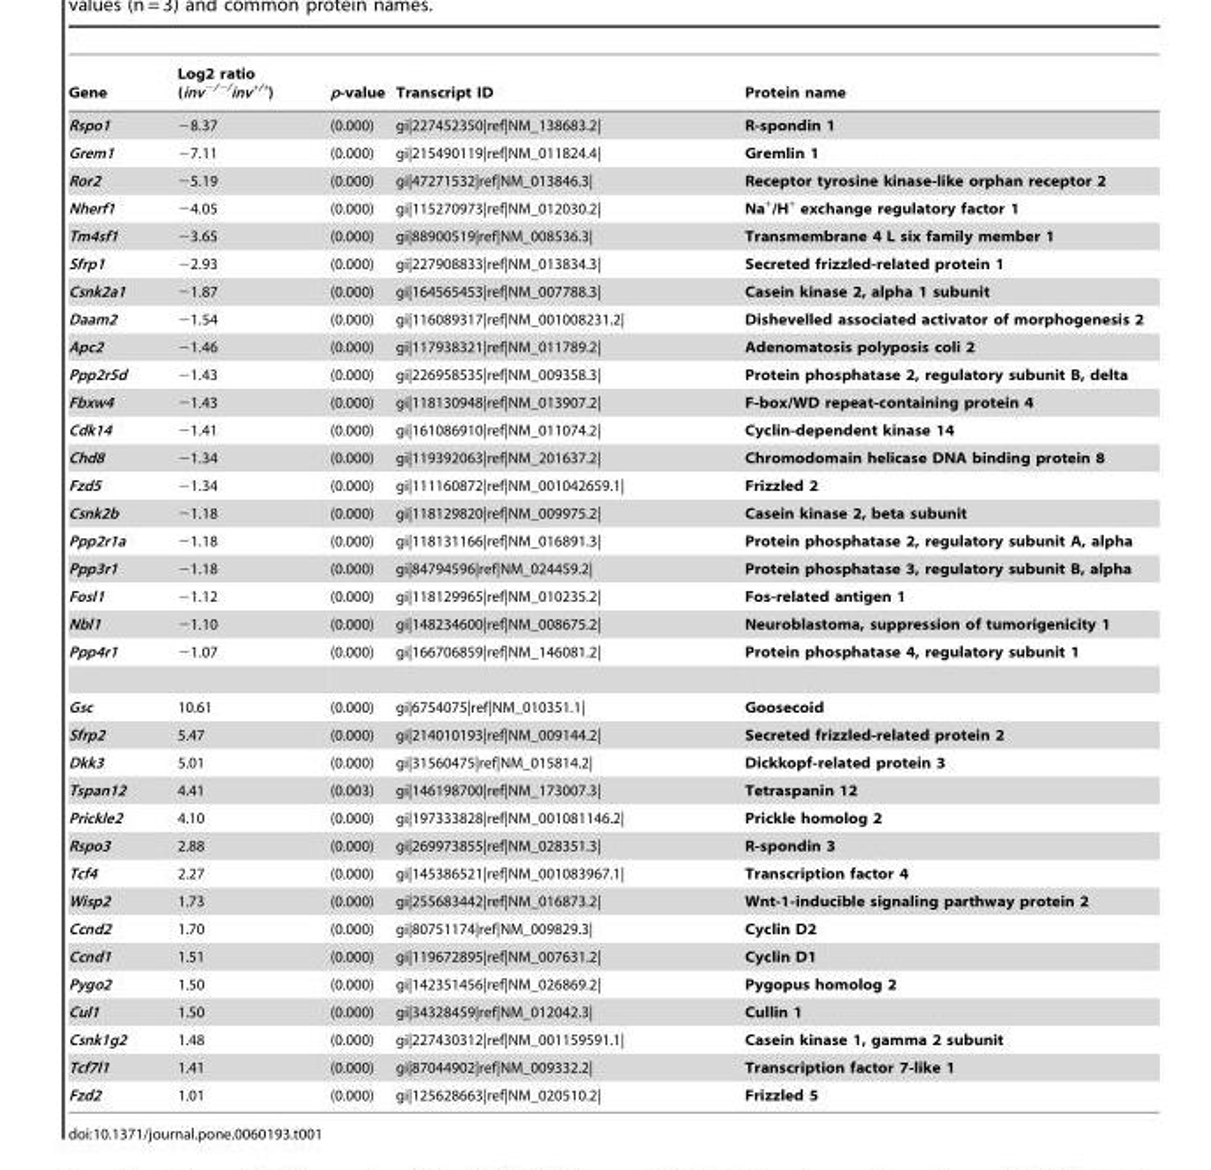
<table><thead><tr><td>Gene</td><td>Log2 ratio (inv<sup>−/−/</sup>inv<sup>+/+</sup>)</td><td>p-value</td><td>Transcript ID</td><td>Protein name</td></tr></thead><tbody><tr><td>Rspo1</td><td>−8.37</td><td>(0.000)</td><td>gi|227452350|ref|NM_138683.2|</td><td>R-spondin 1</td></tr><tr><td>Grem1</td><td>−7.11</td><td>(0.000)</td><td>gi|215490119|ref|NM_011824.4|</td><td>Gremlin 1</td></tr><tr><td>Ror2</td><td>−5.19</td><td>(0.000)</td><td>gi|47271532|ref|NM_013846.3|</td><td>Receptor tyrosine kinase-like orphan receptor 2</td></tr><tr><td>Nherf1</td><td>−4.05</td><td>(0.000)</td><td>gi|115270973|ref|NM_012030.2|</td><td>Na<sup>+</sup>/H<sup>+</sup> exchange regulatory factor 1</td></tr><tr><td>Tm4sf1</td><td>−3.65</td><td>(0.000)</td><td>gi|88900519|ref|NM_008536.3|</td><td>Transmembrane 4 L six family member 1</td></tr><tr><td>Sfrp1</td><td>−2.93</td><td>(0.000)</td><td>gi|227908833|ref|NM_013834.3|</td><td>Secreted frizzled-related protein 1</td></tr><tr><td>Csnk2a1</td><td>−1.87</td><td>(0.000)</td><td>gi|164565453|ref|NM_007788.3|</td><td>Casein kinase 2, alpha 1 subunit</td></tr><tr><td>Daam2</td><td>−1.54</td><td>(0.000)</td><td>gi|116089317|ref|NM_001008231.2|</td><td>Dishevelled associated activator of morphogenesis 2</td></tr><tr><td>Apc2</td><td>−1.46</td><td>(0.000)</td><td>gi|117938321|ref|NM_011789.2|</td><td>Adenomatosis polyposis coli 2</td></tr><tr><td>Ppp2r5d</td><td>−1.43</td><td>(0.000)</td><td>gi|226958535|ref|NM_009358.3|</td><td>Protein phosphatase 2, regulatory subunit B, delta</td></tr><tr><td>Fbxw4</td><td>−1.43</td><td>(0.000)</td><td>gi|118130948|ref|NM_013907.2|</td><td>F-box/WD repeat-containing protein 4</td></tr><tr><td>Cdk14</td><td>−1.41</td><td>(0.000)</td><td>gi|161086910|ref|NM_011074.2|</td><td>Cyclin-dependent kinase 14</td></tr><tr><td>Chd8</td><td>−1.34</td><td>(0.000)</td><td>gi|119392063|ref|NM_201637.2|</td><td>Chromodomain helicase DNA binding protein 8</td></tr><tr><td>Fzd5</td><td>−1.34</td><td>(0.000)</td><td>gi|111160872|ref|NM_001042659.1|</td><td>Frizzled 2</td></tr><tr><td>Csnk2b</td><td>−1.18</td><td>(0.000)</td><td>gi|118129820|ref|NM_009975.2|</td><td>Casein kinase 2, beta subunit</td></tr><tr><td>Ppp2r1a</td><td>−1.18</td><td>(0.000)</td><td>gi|118131166|ref|NM_016891.3|</td><td>Protein phosphatase 2, regulatory subunit A, alpha</td></tr><tr><td>Ppp3r1</td><td>−1.18</td><td>(0.000)</td><td>gi|84794596|ref|NM_024459.2|</td><td>Protein phosphatase 3, regulatory subunit B, alpha</td></tr><tr><td>Fosl1</td><td>−1.12</td><td>(0.000)</td><td>gi|118129965|ref|NM_010235.2|</td><td>Fos-related antigen 1</td></tr><tr><td>Nbl1</td><td>−1.10</td><td>(0.000)</td><td>gi|148234600|ref|NM_008675.2|</td><td>Neuroblastoma, suppression of tumorigenicity 1</td></tr><tr><td>Ppp4r1</td><td>−1.07</td><td>(0.000)</td><td>gi|166706859|ref|NM_146081.2|</td><td>Protein phosphatase 4, regulatory subunit 1</td></tr><tr><td>Gsc</td><td>10.61</td><td>(0.000)</td><td>gi|6754075|ref|NM_010351.1|</td><td>Goosecoid</td></tr><tr><td>Sfrp2</td><td>5.47</td><td>(0.000)</td><td>gi|214010193|ref|NM_009144.2|</td><td>Secreted frizzled-related protein 2</td></tr><tr><td>Dkk3</td><td>5.01</td><td>(0.000)</td><td>gi|31560475|ref|NM_015814.2|</td><td>Dickkopf-related protein 3</td></tr><tr><td>Tspan12</td><td>4.41</td><td>(0.003)</td><td>gi|146198700|ref|NM_173007.3|</td><td>Tetraspanin 12</td></tr><tr><td>Prickle2</td><td>4.10</td><td>(0.000)</td><td>gi|197333828|ref|NM_001081146.2|</td><td>Prickle homolog 2</td></tr><tr><td>Rspo3</td><td>2.88</td><td>(0.000)</td><td>gi|269973855|ref|NM_028351.3|</td><td>R-spondin 3</td></tr><tr><td>Tcf4</td><td>2.27</td><td>(0.000)</td><td>gi|145386521|ref|NM_001083967.1|</td><td>Transcription factor 4</td></tr><tr><td>Wisp2</td><td>1.73</td><td>(0.000)</td><td>gi|255683442|ref|NM_016873.2|</td><td>Wnt-1-inducible signaling parthway protein 2</td></tr><tr><td>Ccnd2</td><td>1.70</td><td>(0.000)</td><td>gi|80751174|ref|NM_009829.3|</td><td>Cyclin D2</td></tr><tr><td>Ccnd1</td><td>1.51</td><td>(0.000)</td><td>gi|119672895|ref|NM_007631.2|</td><td>Cyclin D1</td></tr><tr><td>Pygo2</td><td>1.50</td><td>(0.000)</td><td>gi|142351456|ref|NM_026869.2|</td><td>Pygopus homolog 2</td></tr><tr><td>Cul1</td><td>1.50</td><td>(0.000)</td><td>gi|34328459|ref|NM_012042.3|</td><td>Cullin 1</td></tr><tr><td>Csnk1g2</td><td>1.48</td><td>(0.000)</td><td>gi|227430312|ref|NM_001159591.1|</td><td>Casein kinase 1, gamma 2 subunit</td></tr><tr><td>Tcf7l1</td><td>1.41</td><td>(0.000)</td><td>gi|87044902|ref|NM_009332.2|</td><td>Transcription factor 7-like 1</td></tr><tr><td>Fzd2</td><td>1.01</td><td>(0.000)</td><td>gi|125628663|ref|NM_020510.2|</td><td>Frizzled 5</td></tr></tbody></table>